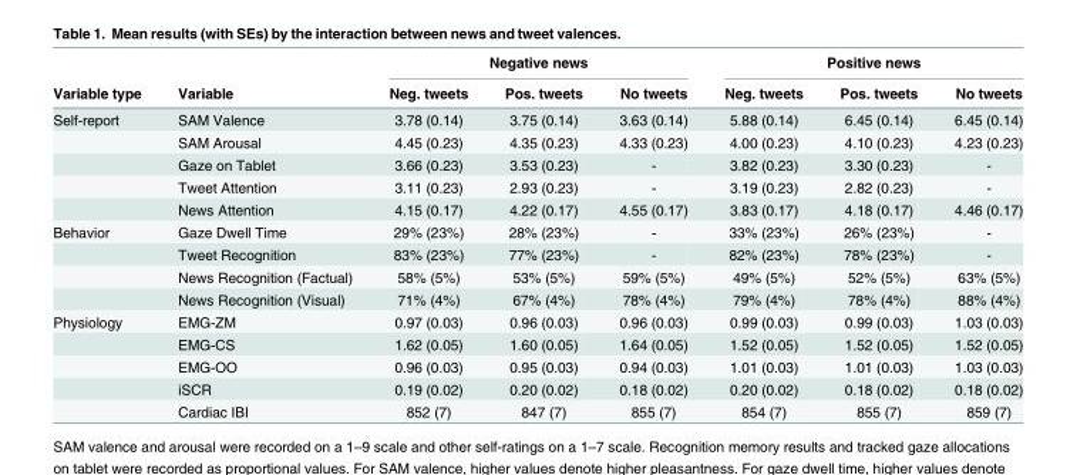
<table><thead><tr><td rowspan="2">Variable type</td><td rowspan="2">Variable</td><td colspan="3">Negative news</td><td colspan="3">Positive news</td></tr><tr><td>Neg. tweets</td><td>Pos. tweets</td><td>No tweets</td><td>Neg. tweets</td><td>Pos. tweets</td><td>No tweets</td></tr></thead><tbody><tr><td rowspan="5">Self-report</td><td>SAM Valence</td><td>3.78 (0.14)</td><td>3.75 (0.14)</td><td>3.63 (0.14)</td><td>5.88 (0.14)</td><td>6.45 (0.14)</td><td>6.45 (0.14)</td></tr><tr><td>SAM Arousal</td><td>4.45 (0.23)</td><td>4.35 (0.23)</td><td>4.33 (0.23)</td><td>4.00 (0.23)</td><td>4.10 (0.23)</td><td>4.23 (0.23)</td></tr><tr><td>Gaze on Tablet</td><td>3.66 (0.23)</td><td>3.53 (0.23)</td><td>-</td><td>3.82 (0.23)</td><td>3.30 (0.23)</td><td>-</td></tr><tr><td>Tweet Attention</td><td>3.11 (0.23)</td><td>2.93 (0.23)</td><td>-</td><td>3.19 (0.23)</td><td>2.82 (0.23)</td><td>-</td></tr><tr><td>News Attention</td><td>4.15 (0.17)</td><td>4.22 (0.17)</td><td>4.55 (0.17)</td><td>3.83 (0.17)</td><td>4.18 (0.17)</td><td>4.46 (0.17)</td></tr><tr><td rowspan="4">Behavior</td><td>Gaze Dwell Time</td><td>29% (23%)</td><td>28% (23%)</td><td>-</td><td>33% (23%)</td><td>26% (23%)</td><td>-</td></tr><tr><td>Tweet Recognition</td><td>83% (23%)</td><td>77% (23%)</td><td>-</td><td>82% (23%)</td><td>78% (23%)</td><td>-</td></tr><tr><td>News Recognition (Factual)</td><td>58% (5%)</td><td>53% (5%)</td><td>59% (5%)</td><td>49% (5%)</td><td>52% (5%)</td><td>63% (5%)</td></tr><tr><td>News Recognition (Visual)</td><td>71% (4%)</td><td>67% (4%)</td><td>78% (4%)</td><td>79% (4%)</td><td>78% (4%)</td><td>88% (4%)</td></tr><tr><td rowspan="5">Physiology</td><td>EMG-ZM</td><td>0.97 (0.03)</td><td>0.96 (0.03)</td><td>0.96 (0.03)</td><td>0.99 (0.03)</td><td>0.99 (0.03)</td><td>1.03 (0.03)</td></tr><tr><td>EMG-CS</td><td>1.62 (0.05)</td><td>1.60 (0.05)</td><td>1.64 (0.05)</td><td>1.52 (0.05)</td><td>1.52 (0.05)</td><td>1.52 (0.05)</td></tr><tr><td>EMG-OO</td><td>0.96 (0.03)</td><td>0.95 (0.03)</td><td>0.94 (0.03)</td><td>1.01 (0.03)</td><td>1.01 (0.03)</td><td>1.03 (0.03)</td></tr><tr><td>iSCR</td><td>0.19 (0.02)</td><td>0.20 (0.02)</td><td>0.18 (0.02)</td><td>0.20 (0.02)</td><td>0.18 (0.02)</td><td>0.18 (0.02)</td></tr><tr><td>Cardiac IBI</td><td>852 (7)</td><td>847 (7)</td><td>855 (7)</td><td>854 (7)</td><td>855 (7)</td><td>859 (7)</td></tr></tbody></table>